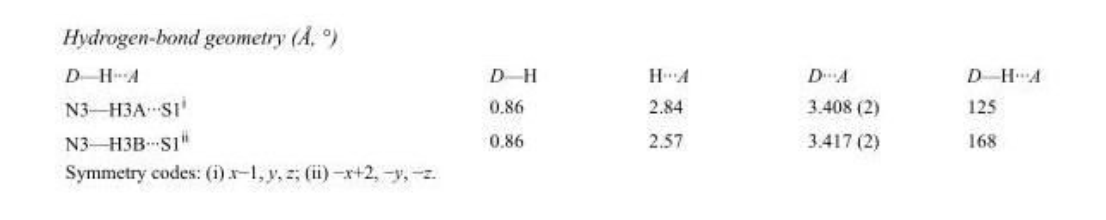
<table><tbody><tr><td>D—H···A</td><td>D—H</td><td>H···A</td><td>D···A</td><td>D—H···A</td></tr><tr><td>N3—H3A···S1<sup>i</sup></td><td>0.86</td><td>2.84</td><td>3.408 (2)</td><td>125</td></tr><tr><td>N3—H3B···S1<sup>ii</sup></td><td>0.86</td><td>2.57</td><td>3.417 (2)</td><td>168</td></tr></tbody></table>